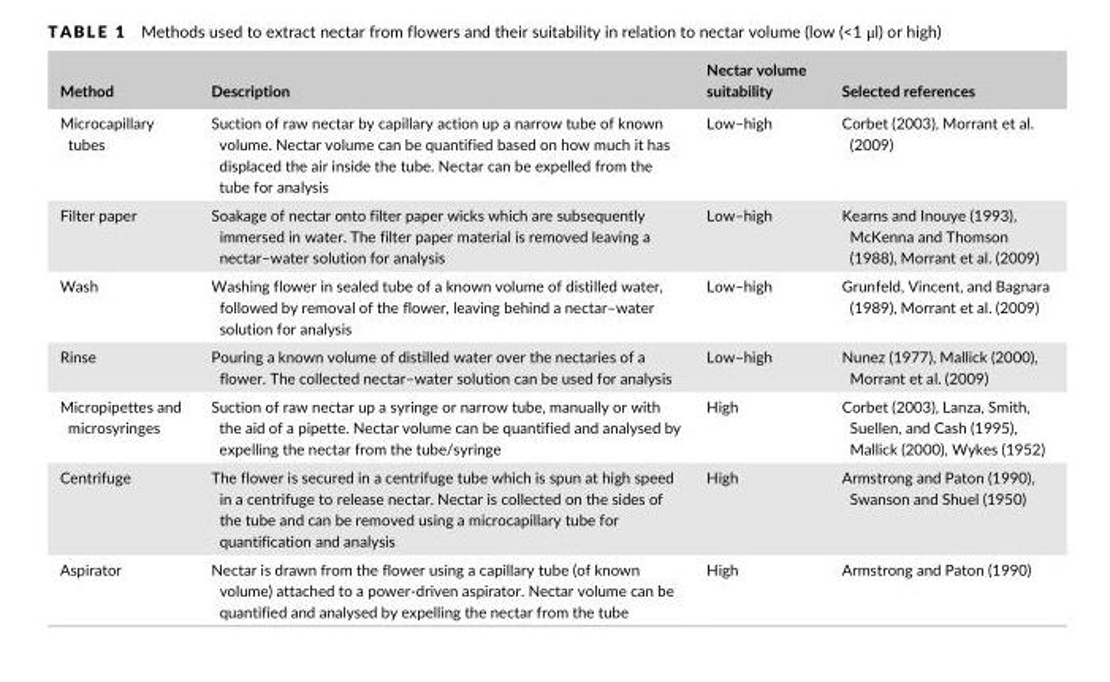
<table><thead><tr><td>Method</td><td>Description</td><td>Nectar volume suitability</td><td>Selected references</td></tr></thead><tbody><tr><td>Microcapillary tubes</td><td>Suction of raw nectar by capillary action up a narrow tube of known volume. Nectar volume can be quantified based on how much it has displaced the air inside the tube. Nectar can be expelled from the tube for analysis</td><td>Low–high</td><td>Corbet (2003), Morrant et al. (2009)</td></tr><tr><td>Filter paper</td><td>Soakage of nectar onto filter paper wicks which are subsequently immersed in water. The filter paper material is removed leaving a nectar–water solution for analysis</td><td>Low–high</td><td>Kearns and Inouye (1993), McKenna and Thomson (1988), Morrant et al. (2009)</td></tr><tr><td>Wash</td><td>Washing flower in sealed tube of a known volume of distilled water, followed by removal of the flower, leaving behind a nectar–water solution for analysis</td><td>Low–high</td><td>Grunfeld, Vincent, and Bagnara (1989), Morrant et al. (2009)</td></tr><tr><td>Rinse</td><td>Pouring a known volume of distilled water over the nectaries of a flower. The collected nectar–water solution can be used for analysis</td><td>Low–high</td><td>Nunez (1977), Mallick (2000), Morrant et al. (2009)</td></tr><tr><td>Micropipettes and microsyringes</td><td>Suction of raw nectar up a syringe or narrow tube, manually or with the aid of a pipette. Nectar volume can be quantified and analysed by expelling the nectar from the tube/syringe</td><td>High</td><td>Corbet (2003), Lanza, Smith, Suellen, and Cash (1995), Mallick (2000), Wykes (1952)</td></tr><tr><td>Centrifuge</td><td>The flower is secured in a centrifuge tube which is spun at high speed in a centrifuge to release nectar. Nectar is collected on the sides of the tube and can be removed using a microcapillary tube for quantification and analysis</td><td>High</td><td>Armstrong and Paton (1990), Swanson and Shuel (1950)</td></tr><tr><td>Aspirator</td><td>Nectar is drawn from the flower using a capillary tube (of known volume) attached to a power- driven aspirator. Nectar volume can be quantified and analysed by expelling the nectar from the tube</td><td>High</td><td>Armstrong and Paton (1990)</td></tr></tbody></table>